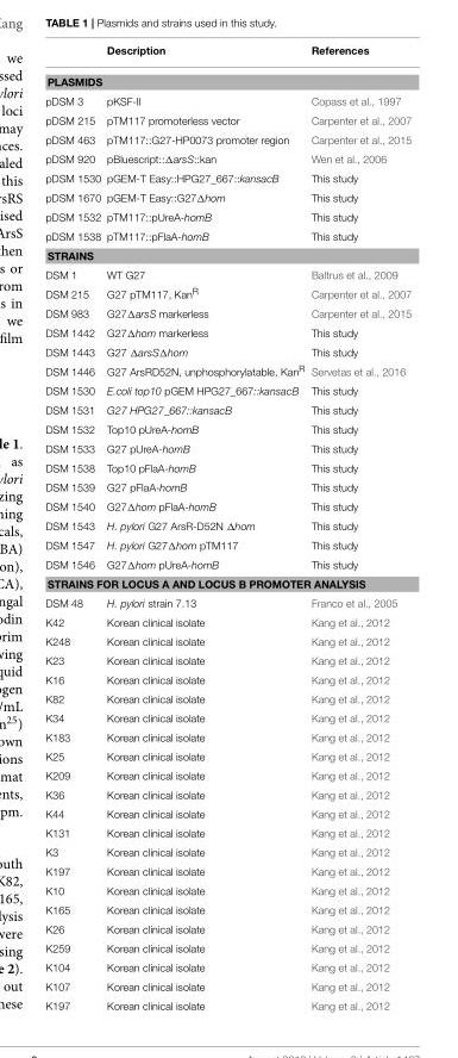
<table><thead><tr><td></td><td>Description</td><td>References</td></tr></thead><tbody><tr><td colspan="3">PLASMIDS</td></tr><tr><td>pDSM 3</td><td>pKSF-II</td><td>Copass et al., 1997</td></tr><tr><td>pDSM 215</td><td>pTM117 promoterless vector</td><td>Carpenter et al., 2007</td></tr><tr><td>pDSM 463</td><td>pTM117::G27-HP0073 promoter region</td><td>Carpenter et al., 2015</td></tr><tr><td>pDSM 920</td><td>pBluescript::ΔarsS::kan</td><td>Wen et al., 2006</td></tr><tr><td>pDSM 1530</td><td>pGEM-T Easy::HPG27_667::kansacB</td><td>This study</td></tr><tr><td>pDSM 1670</td><td>pGEM-T Easy::G27Δhom</td><td>This study</td></tr><tr><td>pDSM 1532</td><td>pTM117::pUreA-homB</td><td>This study</td></tr><tr><td>pDSM 1538</td><td>pTM117::pFlaA-homB</td><td>This study</td></tr><tr><td colspan="3">STRAINS</td></tr><tr><td>DSM 1</td><td>WT G27</td><td>Baltrus et al., 2009</td></tr><tr><td>DSM 215</td><td>G27 pTM117, Kan<sup>R</sup></td><td>Carpenter et al., 2007</td></tr><tr><td>DSM 983</td><td>G27ΔarsS markerless</td><td>Carpenter et al., 2015</td></tr><tr><td>DSM 1442</td><td>G27Δhom markerless</td><td>This study</td></tr><tr><td>DSM 1443</td><td>G27 ΔarsSΔhom</td><td>This study</td></tr><tr><td>DSM 1446</td><td>G27 ArsRD52N, unphosphorylatable, Kan<sup>R</sup></td><td>Servetas et al., 2016</td></tr><tr><td>DSM 1530</td><td>E.coli top10 pGEM HPG27_667::kansacB</td><td>This study</td></tr><tr><td>DSM 1531</td><td>G27 HPG27_667::kansacB</td><td>This study</td></tr><tr><td>DSM 1532</td><td>Top10 pUreA-homB</td><td>This study</td></tr><tr><td>DSM 1533</td><td>G27 pUreA-homB</td><td>This study</td></tr><tr><td>DSM 1538</td><td>Top10 pFlaA-homB</td><td>This study</td></tr><tr><td>DSM 1539</td><td>G27 pFlaA-homB</td><td>This study</td></tr><tr><td>DSM 1540</td><td>G27Δhom pFlaA-homB</td><td>This study</td></tr><tr><td>DSM 1543</td><td>H. pylori G27 ArsR-D52N Δhom</td><td>This study</td></tr><tr><td>DSM 1547</td><td>H. pylori G27Δhom pTM117</td><td>This study</td></tr><tr><td>DSM 1546</td><td>G27Δhom pUreA-homB</td><td>This study</td></tr><tr><td colspan="3">STRAINS FOR LOCUS A AND LOCUS B PROMOTER ANALYSIS</td></tr><tr><td>DSM 48</td><td>H. pylori strain 7.13</td><td>Franco et al., 2005</td></tr><tr><td>K42</td><td>Korean clinical isolate</td><td>Kang et al., 2012</td></tr><tr><td>K248</td><td>Korean clinical isolate</td><td>Kang et al., 2012</td></tr><tr><td>K23</td><td>Korean clinical isolate</td><td>Kang et al., 2012</td></tr><tr><td>K16</td><td>Korean clinical isolate</td><td>Kang et al., 2012</td></tr><tr><td>K82</td><td>Korean clinical isolate</td><td>Kang et al., 2012</td></tr><tr><td>K34</td><td>Korean clinical isolate</td><td>Kang et al., 2012</td></tr><tr><td>K183</td><td>Korean clinical isolate</td><td>Kang et al., 2012</td></tr><tr><td>K25</td><td>Korean clinical isolate</td><td>Kang et al., 2012</td></tr><tr><td>K209</td><td>Korean clinical isolate</td><td>Kang et al., 2012</td></tr><tr><td>K36</td><td>Korean clinical isolate</td><td>Kang et al., 2012</td></tr><tr><td>K44</td><td>Korean clinical isolate</td><td>Kang et al., 2012</td></tr><tr><td>K131</td><td>Korean clinical isolate</td><td>Kang et al., 2012</td></tr><tr><td>K3</td><td>Korean clinical isolate</td><td>Kang et al., 2012</td></tr><tr><td>K197</td><td>Korean clinical isolate</td><td>Kang et al., 2012</td></tr><tr><td>K10</td><td>Korean clinical isolate</td><td>Kang et al., 2012</td></tr><tr><td>K165</td><td>Korean clinical isolate</td><td>Kang et al., 2012</td></tr><tr><td>K26</td><td>Korean clinical isolate</td><td>Kang et al., 2012</td></tr><tr><td>K259</td><td>Korean clinical isolate</td><td>Kang et al., 2012</td></tr><tr><td>K104</td><td>Korean clinical isolate</td><td>Kang et al., 2012</td></tr><tr><td>K107</td><td>Korean clinical isolate</td><td>Kang et al., 2012</td></tr><tr><td>K197</td><td>Korean clinical isolate</td><td>Kang et al., 2012</td></tr></tbody></table>